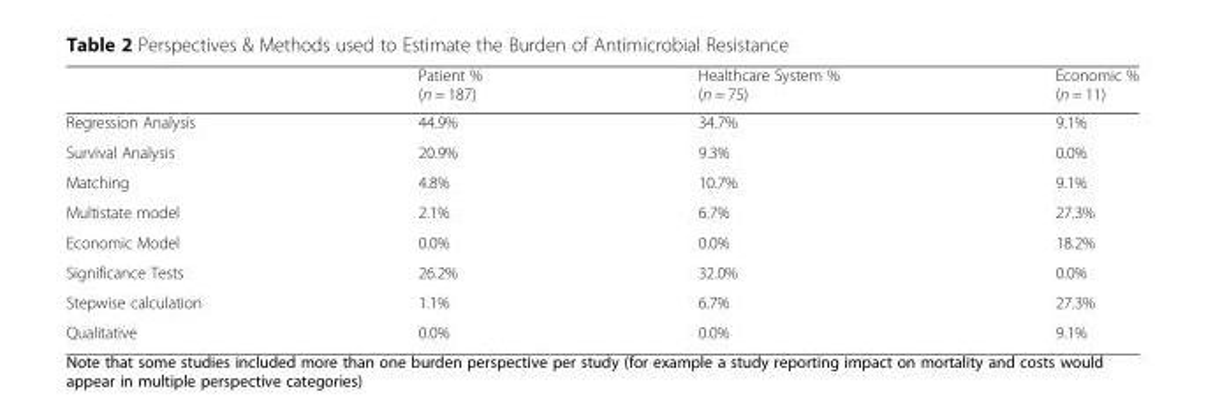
<table><thead><tr><td></td><td>Patient % (n = 187)</td><td>Healthcare System % (n = 75)</td><td>Economic % (n = 11)</td></tr></thead><tbody><tr><td>Regression Analysis</td><td>44.9%</td><td>34.7%</td><td>9.1%</td></tr><tr><td>Survival Analysis</td><td>20.9%</td><td>9.3%</td><td>0.0%</td></tr><tr><td>Matching</td><td>4.8%</td><td>10.7%</td><td>9.1%</td></tr><tr><td>Multistate model</td><td>2.1%</td><td>6.7%</td><td>27.3%</td></tr><tr><td>Economic Model</td><td>0.0%</td><td>0.0%</td><td>18.2%</td></tr><tr><td>Significance Tests</td><td>26.2%</td><td>32.0%</td><td>0.0%</td></tr><tr><td>Stepwise calculation</td><td>1.1%</td><td>6.7%</td><td>27.3%</td></tr><tr><td>Qualitative</td><td>0.0%</td><td>0.0%</td><td>9.1%</td></tr></tbody></table>